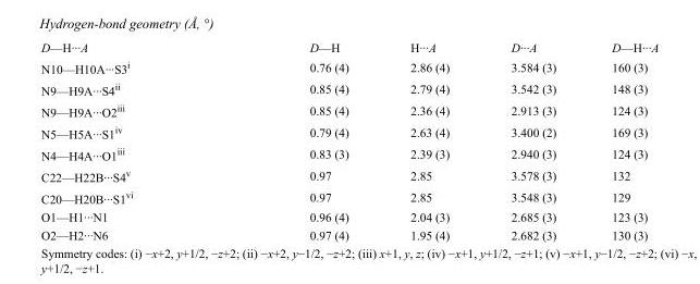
<table><tbody><tr><td>D—H···A</td><td>D—H</td><td>H···A</td><td>D···A</td><td>D—H···A</td></tr><tr><td>N10—H10A···S3<sup>i</sup></td><td>0.76 (4)</td><td>2.86 (4)</td><td>3.584 (3)</td><td>160 (3)</td></tr><tr><td>N9—H9A···S4<sup>ii</sup></td><td>0.85 (4)</td><td>2.79 (4)</td><td>3.542 (3)</td><td>148 (3)</td></tr><tr><td>N9—H9A···O2<sup>iii</sup></td><td>0.85 (4)</td><td>2.36 (4)</td><td>2.913 (3)</td><td>124 (3)</td></tr><tr><td>N5—H5A···S1<sup>iv</sup></td><td>0.79 (4)</td><td>2.63 (4)</td><td>3.400 (2)</td><td>169 (3)</td></tr><tr><td>N4—H4A···O1<sup>iii</sup></td><td>0.83 (3)</td><td>2.39 (3)</td><td>2.940 (3)</td><td>124 (3)</td></tr><tr><td>C22—H22B···S4<sup>v</sup></td><td>0.97</td><td>2.85</td><td>3.578 (3)</td><td>132</td></tr><tr><td>C20—H20B···S1<sup>vi</sup></td><td>0.97</td><td>2.85</td><td>3.548 (3)</td><td>129</td></tr><tr><td>O1—H1···N1</td><td>0.96 (4)</td><td>2.04 (3)</td><td>2.685 (3)</td><td>123 (3)</td></tr><tr><td>O2—H2···N6</td><td>0.97 (4)</td><td>1.95 (4)</td><td>2.682 (3)</td><td>130 (3)</td></tr></tbody></table>